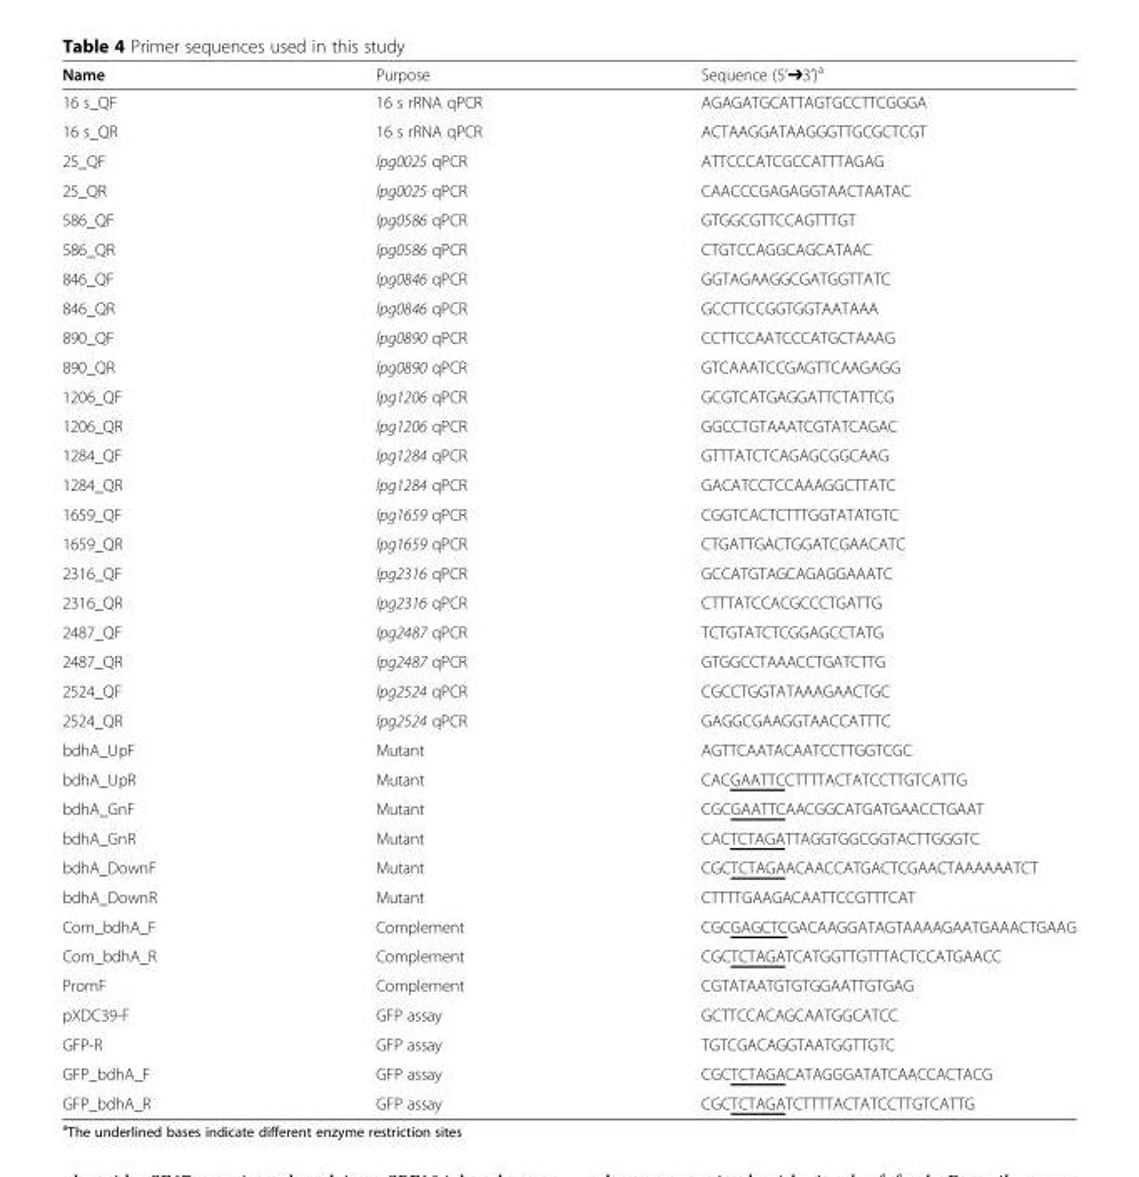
<table><thead><tr><td>Name</td><td>Purpose</td><td>Sequence (5’➔3’)<sup>a</sup></td></tr></thead><tbody><tr><td>16 s_QF</td><td>16 s rRNA qPCR</td><td>AGAGATGCATTAGTGCCTTCGGGA</td></tr><tr><td>16 s_QR</td><td>16 s rRNA qPCR</td><td>ACTAAGGATAAGGGTTGCGCTCGT</td></tr><tr><td>25_QF</td><td>lpg0025 qPCR</td><td>ATTCCCATCGCCATTTAGAG</td></tr><tr><td>25_QR</td><td>lpg0025 qPCR</td><td>CAACCCGAGAGGTAACTAATAC</td></tr><tr><td>586_QF</td><td>lpg0586 qPCR</td><td>GTGGCGTTCCAGTTTGT</td></tr><tr><td>586_QR</td><td>lpg0586 qPCR</td><td>CTGTCCAGGCAGCATAAC</td></tr><tr><td>846_QF</td><td>lpg0846 qPCR</td><td>GGTAGAAGGCGATGGTTATC</td></tr><tr><td>846_QR</td><td>lpg0846 qPCR</td><td>GCCTTCCGGTGGTAATAAA</td></tr><tr><td>890_QF</td><td>lpg0890 qPCR</td><td>CCTTCCAATCCCATGCTAAAG</td></tr><tr><td>890_QR</td><td>lpg0890 qPCR</td><td>GTCAAATCCGAGTTCAAGAGG</td></tr><tr><td>1206_QF</td><td>lpg1206 qPCR</td><td>GCGTCATGAGGATTCTATTCG</td></tr><tr><td>1206_QR</td><td>lpg1206 qPCR</td><td>GGCCTGTAAATCGTATCAGAC</td></tr><tr><td>1284_QF</td><td>lpg1284 qPCR</td><td>GTTTATCTCAGAGCGGCAAG</td></tr><tr><td>1284_QR</td><td>lpg1284 qPCR</td><td>GACATCCTCCAAAGGCTTATC</td></tr><tr><td>1659_QF</td><td>lpg1659 qPCR</td><td>CGGTCACTCTTTGGTATATGTC</td></tr><tr><td>1659_QR</td><td>lpg1659 qPCR</td><td>CTGATTGACTGGATCGAACATC</td></tr><tr><td>2316_QF</td><td>lpg2316 qPCR</td><td>GCCATGTAGCAGAGGAAATC</td></tr><tr><td>2316_QR</td><td>lpg2316 qPCR</td><td>CTTTATCCACGCCCTGATTG</td></tr><tr><td>2487_QF</td><td>lpg2487 qPCR</td><td>TCTGTATCTCGGAGCCTATG</td></tr><tr><td>2487_QR</td><td>lpg2487 qPCR</td><td>GTGGCCTAAACCTGATCTTG</td></tr><tr><td>2524_QF</td><td>lpg2524 qPCR</td><td>CGCCTGGTATAAAGAACTGC</td></tr><tr><td>2524_QR</td><td>lpg2524 qPCR</td><td>GAGGCGAAGGTAACCATTTC</td></tr><tr><td>bdhA_UpF</td><td>Mutant</td><td>AGTTCAATACAATCCTTGGTCGC</td></tr><tr><td>bdhA_UpR</td><td>Mutant</td><td>CACGAATTCCTTTTACTATCCTTGTCATTG</td></tr><tr><td>bdhA_GnF</td><td>Mutant</td><td>CGCGAATTCAACGGCATGATGAACCTGAAT</td></tr><tr><td>bdhA_GnR</td><td>Mutant</td><td>CACTCTAGATTAGGTGGCGGTACTTGGGTC</td></tr><tr><td>bdhA_DownF</td><td>Mutant</td><td>CGCTCTAGAACAACCATGACTCGAACTAAAAAATCT</td></tr><tr><td>bdhA_DownR</td><td>Mutant</td><td>CTTTTGAAGACAATTCCGTTTCAT</td></tr><tr><td>Com_bdhA_F</td><td>Complement</td><td>CGCGAGCTCGACAAGGATAGTAAAAGAATGAAACTGAAG</td></tr><tr><td>Com_bdhA_R</td><td>Complement</td><td>CGCTCTAGATCATGGTTGTTTACTCCATGAACC</td></tr><tr><td>PromF</td><td>Complement</td><td>CGTATAATGTGTGGAATTGTGAG</td></tr><tr><td>pXDC39-F</td><td>GFP assay</td><td>GCTTCCACAGCAATGGCATCC</td></tr><tr><td>GFP-R</td><td>GFP assay</td><td>TGTCGACAGGTAATGGTTGTC</td></tr><tr><td>GFP_bdhA_F</td><td>GFP assay</td><td>CGCTCTAGACATAGGGATATCAACCACTACG</td></tr><tr><td>GFP_bdhA_R</td><td>GFP assay</td><td>CGCTCTAGATCTTTTACTATCCTTGTCATTG</td></tr></tbody></table>